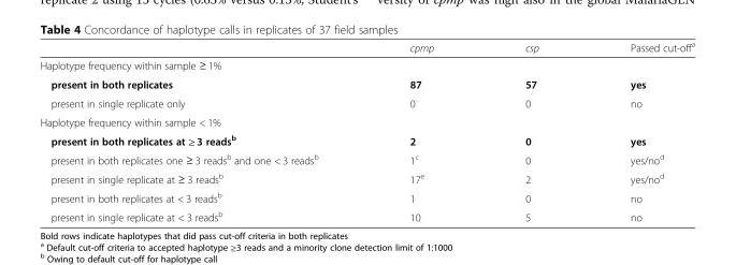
<table><thead><tr><td></td><td>cpmp</td><td>csp</td><td>Passed cut-off<sup>a</sup></td></tr></thead><tbody><tr><td colspan="4">Haplotype frequency within sample ≥ 1%</td></tr><tr><td>present in both replicates</td><td>87</td><td>57</td><td>yes</td></tr><tr><td>present in single replicate only</td><td>0</td><td>0</td><td>no</td></tr><tr><td colspan="4">Haplotype frequency within sample &lt; 1%</td></tr><tr><td>present in both replicates at ≥ 3 reads<sup>b</sup></td><td>2</td><td>0</td><td>yes</td></tr><tr><td>present in both replicates one ≥ 3 reads<sup>b</sup> and one &lt; 3 reads<sup>b</sup></td><td>1<sup>c</sup></td><td>0</td><td>yes/no<sup>d</sup></td></tr><tr><td>present in single replicate at ≥ 3 reads<sup>b</sup></td><td>17<sup>e</sup></td><td>2</td><td>yes/no<sup>d</sup></td></tr><tr><td>present in both replicates at &lt; 3 reads<sup>b</sup></td><td>1</td><td>0</td><td>no</td></tr><tr><td>present in single replicate at &lt; 3 reads<sup>b</sup></td><td>10</td><td>5</td><td>no</td></tr></tbody></table>